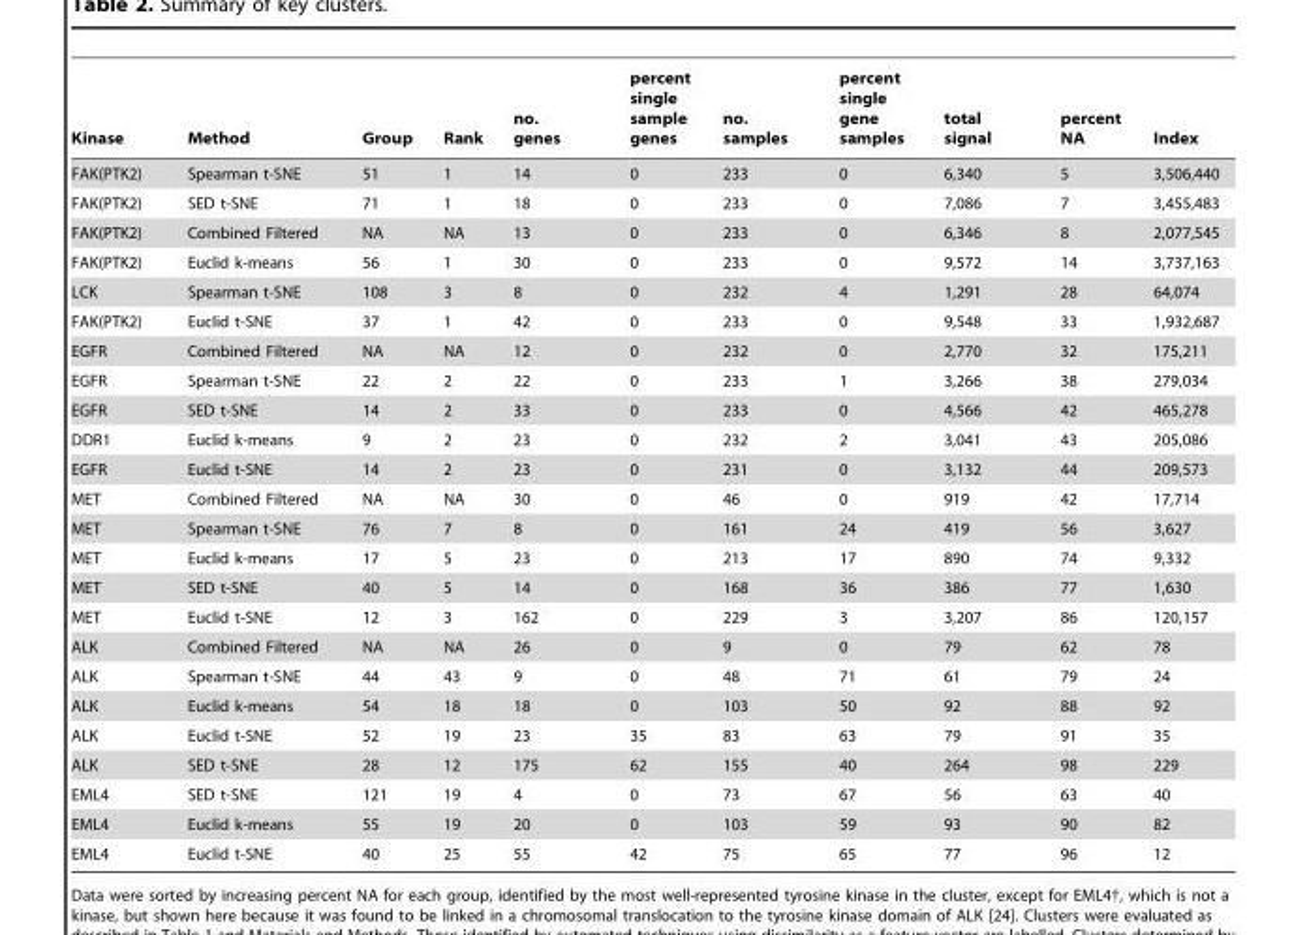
<table><thead><tr><td>Kinase</td><td>Method</td><td>Group</td><td>Rank</td><td>no. genes</td><td>percent single sample genes</td><td>no. samples</td><td>percent single gene samples</td><td>total signal</td><td>percent NA</td><td>Index</td></tr></thead><tbody><tr><td>FAK(PTK2)</td><td>Spearman t-SNE</td><td>51</td><td>1</td><td>14</td><td>0</td><td>233</td><td>0</td><td>6,340</td><td>5</td><td>3,506,440</td></tr><tr><td>FAK(PTK2)</td><td>SED t-SNE</td><td>71</td><td>1</td><td>18</td><td>0</td><td>233</td><td>0</td><td>7,086</td><td>7</td><td>3,455,483</td></tr><tr><td>FAK(PTK2)</td><td>Combined Filtered</td><td>NA</td><td>NA</td><td>13</td><td>0</td><td>233</td><td>0</td><td>6,346</td><td>8</td><td>2,077,545</td></tr><tr><td>FAK(PTK2)</td><td>Euclid k-means</td><td>56</td><td>1</td><td>30</td><td>0</td><td>233</td><td>0</td><td>9,572</td><td>14</td><td>3,737,163</td></tr><tr><td>LCK</td><td>Spearman t-SNE</td><td>108</td><td>3</td><td>8</td><td>0</td><td>232</td><td>4</td><td>1,291</td><td>28</td><td>64,074</td></tr><tr><td>FAK(PTK2)</td><td>Euclid t-SNE</td><td>37</td><td>1</td><td>42</td><td>0</td><td>233</td><td>0</td><td>9,548</td><td>33</td><td>1,932,687</td></tr><tr><td>EGFR</td><td>Combined Filtered</td><td>NA</td><td>NA</td><td>12</td><td>0</td><td>232</td><td>0</td><td>2,770</td><td>32</td><td>175,211</td></tr><tr><td>EGFR</td><td>Spearman t-SNE</td><td>22</td><td>2</td><td>22</td><td>0</td><td>233</td><td>1</td><td>3,266</td><td>38</td><td>279,034</td></tr><tr><td>EGFR</td><td>SED t-SNE</td><td>14</td><td>2</td><td>33</td><td>0</td><td>233</td><td>0</td><td>4,566</td><td>42</td><td>465,278</td></tr><tr><td>DDR1</td><td>Euclid k-means</td><td>9</td><td>2</td><td>23</td><td>0</td><td>232</td><td>2</td><td>3,041</td><td>43</td><td>205,086</td></tr><tr><td>EGFR</td><td>Euclid t-SNE</td><td>14</td><td>2</td><td>23</td><td>0</td><td>231</td><td>0</td><td>3,132</td><td>44</td><td>209,573</td></tr><tr><td>MET</td><td>Combined Filtered</td><td>NA</td><td>NA</td><td>30</td><td>0</td><td>46</td><td>0</td><td>919</td><td>42</td><td>17,714</td></tr><tr><td>MET</td><td>Spearman t-SNE</td><td>76</td><td>7</td><td>8</td><td>0</td><td>161</td><td>24</td><td>419</td><td>56</td><td>3,627</td></tr><tr><td>MET</td><td>Euclid k-means</td><td>17</td><td>5</td><td>23</td><td>0</td><td>213</td><td>17</td><td>890</td><td>74</td><td>9,332</td></tr><tr><td>MET</td><td>SED t-SNE</td><td>40</td><td>5</td><td>14</td><td>0</td><td>168</td><td>36</td><td>386</td><td>77</td><td>1,630</td></tr><tr><td>MET</td><td>Euclid t-SNE</td><td>12</td><td>3</td><td>162</td><td>0</td><td>229</td><td>3</td><td>3,207</td><td>86</td><td>120,157</td></tr><tr><td>ALK</td><td>Combined Filtered</td><td>NA</td><td>NA</td><td>26</td><td>0</td><td>9</td><td>0</td><td>79</td><td>62</td><td>78</td></tr><tr><td>ALK</td><td>Spearman t-SNE</td><td>44</td><td>43</td><td>9</td><td>0</td><td>48</td><td>71</td><td>61</td><td>79</td><td>24</td></tr><tr><td>ALK</td><td>Euclid k-means</td><td>54</td><td>18</td><td>18</td><td>0</td><td>103</td><td>50</td><td>92</td><td>88</td><td>92</td></tr><tr><td>ALK</td><td>Euclid t-SNE</td><td>52</td><td>19</td><td>23</td><td>35</td><td>83</td><td>63</td><td>79</td><td>91</td><td>35</td></tr><tr><td>ALK</td><td>SED t-SNE</td><td>28</td><td>12</td><td>175</td><td>62</td><td>155</td><td>40</td><td>264</td><td>98</td><td>229</td></tr><tr><td>EML4</td><td>SED t-SNE</td><td>121</td><td>19</td><td>4</td><td>0</td><td>73</td><td>67</td><td>56</td><td>63</td><td>40</td></tr><tr><td>EML4</td><td>Euclid k-means</td><td>55</td><td>19</td><td>20</td><td>0</td><td>103</td><td>59</td><td>93</td><td>90</td><td>82</td></tr><tr><td>EML4</td><td>Euclid t-SNE</td><td>40</td><td>25</td><td>55</td><td>42</td><td>75</td><td>65</td><td>77</td><td>96</td><td>12</td></tr></tbody></table>